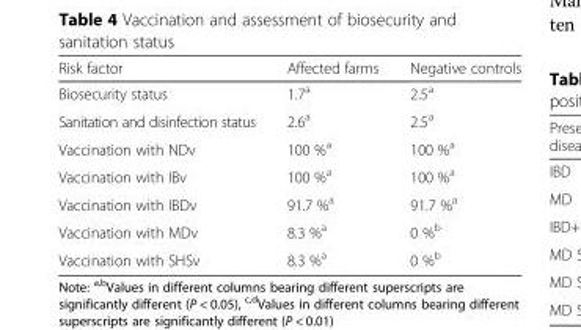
<table><thead><tr><td>Risk factor</td><td>Affected farms</td><td>Negative controls</td></tr></thead><tbody><tr><td>Biosecurity status</td><td>1.7<sup>a</sup></td><td>2.5<sup>a</sup></td></tr><tr><td>Sanitation and disinfection status</td><td>2.6<sup>a</sup></td><td>2.5<sup>a</sup></td></tr><tr><td>Vaccination with NDv</td><td>100 %<sup>a</sup></td><td>100 %<sup>a</sup></td></tr><tr><td>Vaccination with IBv</td><td>100 %<sup>a</sup></td><td>100 %<sup>a</sup></td></tr><tr><td>Vaccination with IBDv</td><td>91.7 %<sup>a</sup></td><td>91.7 %<sup>a</sup></td></tr><tr><td>Vaccination with MDv</td><td>8.3 %<sup>a</sup></td><td>0 %<sup>b</sup></td></tr><tr><td>Vaccination with SHSv</td><td>8.3 %<sup>a</sup></td><td>0 %<sup>b</sup></td></tr></tbody></table>